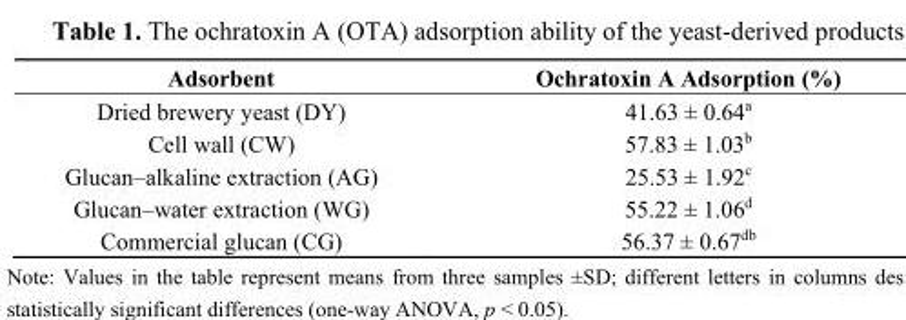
<table><thead><tr><td>Adsorbent</td><td>Ochratoxin A Adsorption (%)</td></tr></thead><tbody><tr><td>Dried brewery yeast (DY)</td><td>41.63 ± 0.64<sup>a</sup></td></tr><tr><td>Cell wall (CW)</td><td>57.83 ± 1.03<sup>b</sup></td></tr><tr><td>Glucan–alkaline extraction (AG)</td><td>25.53 ± 1.92<sup>c</sup></td></tr><tr><td>Glucan–water extraction (WG)</td><td>55.22 ± 1.06<sup>d</sup></td></tr><tr><td>Commercial glucan (CG)</td><td>56.37 ± 0.67<sup>db</sup></td></tr></tbody></table>